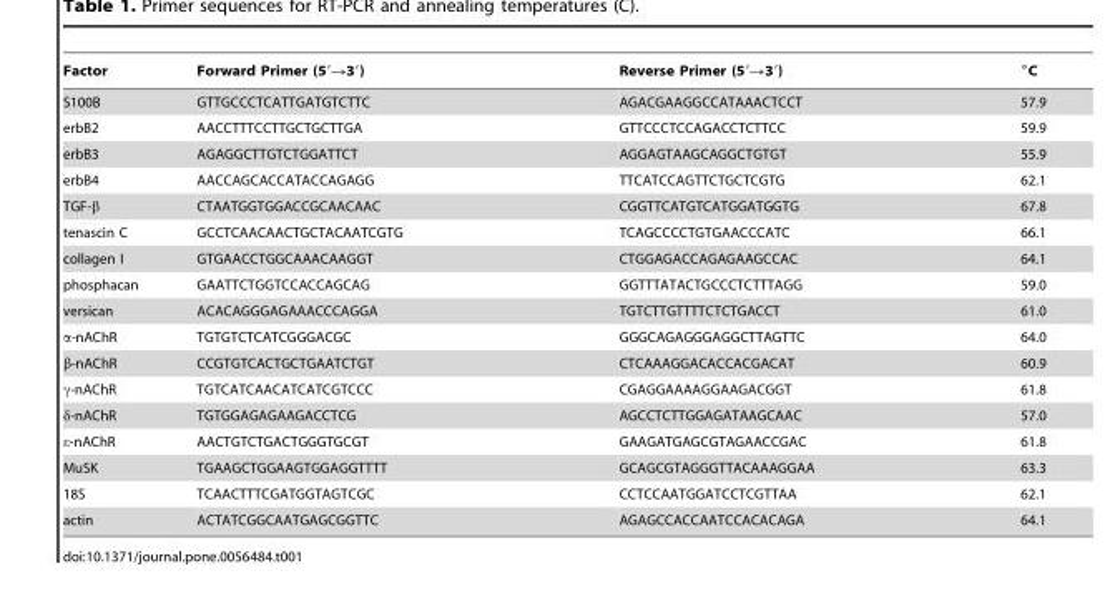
<table><thead><tr><td>Factor</td><td>Forward Primer (5′→3′)</td><td>Reverse Primer (5′→3′)</td><td>°C</td></tr></thead><tbody><tr><td>S100B</td><td>GTTGCCCTCATTGATGTCTTC</td><td>AGACGAAGGCCATAAACTCCT</td><td>57.9</td></tr><tr><td>erbB2</td><td>AACCTTTCCTTGCTGCTTGA</td><td>GTTCCCTCCAGACCTCTTCC</td><td>59.9</td></tr><tr><td>erbB3</td><td>AGAGGCTTGTCTGGATTCT</td><td>AGGAGTAAGCAGGCTGTGT</td><td>55.9</td></tr><tr><td>erbB4</td><td>AACCAGCACCATACCAGAGG</td><td>TTCATCCAGTTCTGCTCGTG</td><td>62.1</td></tr><tr><td>TGF-β</td><td>CTAATGGTGGACCGCAACAAC</td><td>CGGTTCATGTCATGGATGGTG</td><td>67.8</td></tr><tr><td>tenascin C</td><td>GCCTCAACAACTGCTACAATCGTG</td><td>TCAGCCCCTGTGAACCCATC</td><td>66.1</td></tr><tr><td>collagen I</td><td>GTGAACCTGGCAAACAAGGT</td><td>CTGGAGACCAGAGAAGCCAC</td><td>64.1</td></tr><tr><td>phosphacan</td><td>GAATTCTGGTCCACCAGCAG</td><td>GGTTTATACTGCCCTCTTTAGG</td><td>59.0</td></tr><tr><td>versican</td><td>ACACAGGGAGAAACCCAGGA</td><td>TGTCTTGTTTTCTCTGACCT</td><td>61.0</td></tr><tr><td>α-nAChR</td><td>TGTGTCTCATCGGGACGC</td><td>GGGCAGAGGGAGGCTTAGTTC</td><td>64.0</td></tr><tr><td>β-nAChR</td><td>CCGTGTCACTGCTGAATCTGT</td><td>CTCAAAGGACACCACGACAT</td><td>60.9</td></tr><tr><td>γ-nAChR</td><td>TGTCATCAACATCATCGTCCC</td><td>CGAGGAAAAGGAAGACGGT</td><td>61.8</td></tr><tr><td>δ-nAChR</td><td>TGTGGAGAGAAGACCTCG</td><td>AGCCTCTTGGAGATAAGCAAC</td><td>57.0</td></tr><tr><td>ε-nAChR</td><td>AACTGTCTGACTGGGTGCGT</td><td>GAAGATGAGCGTAGAACCGAC</td><td>61.8</td></tr><tr><td>MuSK</td><td>TGAAGCTGGAAGTGGAGGTTTT</td><td>GCAGCGTAGGGTTACAAAGGAA</td><td>63.3</td></tr><tr><td>18S</td><td>TCAACTTTCGATGGTAGTCGC</td><td>CCTCCAATGGATCCTCGTTAA</td><td>62.1</td></tr><tr><td>actin</td><td>ACTATCGGCAATGAGCGGTTC</td><td>AGAGCCACCAATCCACACAGA</td><td>64.1</td></tr></tbody></table>